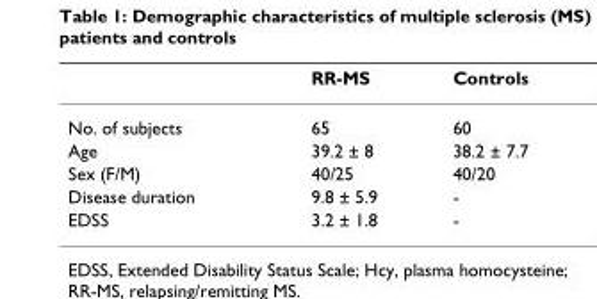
<table><thead><tr><td></td><td>RR-MS</td><td>Controls</td></tr></thead><tbody><tr><td>No. of subjects</td><td>65</td><td>60</td></tr><tr><td>Age</td><td>39.2 ± 8</td><td>38.2 ± 7.7</td></tr><tr><td>Sex (F/M)</td><td>40/25</td><td>40/20</td></tr><tr><td>Disease duration</td><td>9.8 ± 5.9</td><td>-</td></tr><tr><td>EDSS</td><td>3.2 ± 1.8</td><td>-</td></tr></tbody></table>